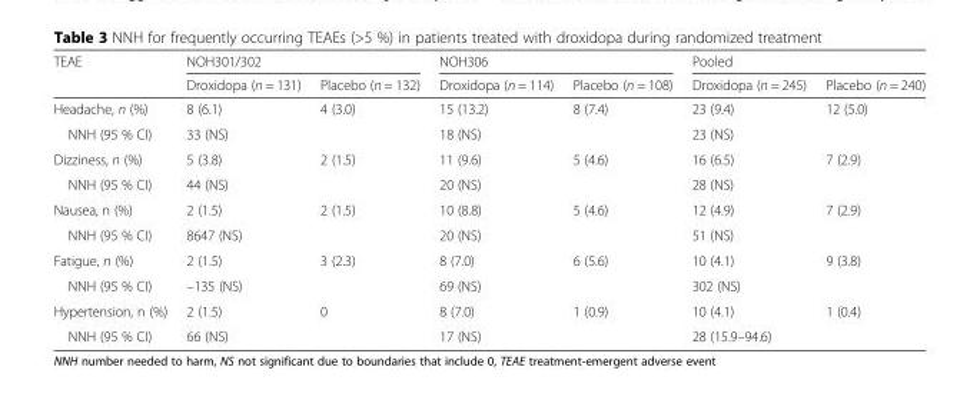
<table><thead><tr><td rowspan="2">TEAE</td><td colspan="2">NOH301/302</td><td colspan="2">NOH306</td><td colspan="2">Pooled</td></tr><tr><td>Droxidopa (n = 131)</td><td>Placebo (n = 132)</td><td>Droxidopa (n = 114)</td><td>Placebo (n = 108)</td><td>Droxidopa (n = 245)</td><td>Placebo (n = 240)</td></tr></thead><tbody><tr><td>Headache, n (%)</td><td>8 (6.1)</td><td>4 (3.0)</td><td>15 (13.2)</td><td>8 (7.4)</td><td>23 (9.4)</td><td>12 (5.0)</td></tr><tr><td>NNH (95 % CI)</td><td>33 (NS)</td><td></td><td>18 (NS)</td><td></td><td>23 (NS)</td><td></td></tr><tr><td>Dizziness, n (%)</td><td>5 (3.8)</td><td>2 (1.5)</td><td>11 (9.6)</td><td>5 (4.6)</td><td>16 (6.5)</td><td>7 (2.9)</td></tr><tr><td>NNH (95 % CI)</td><td>44 (NS)</td><td></td><td>20 (NS)</td><td></td><td>28 (NS)</td><td></td></tr><tr><td>Nausea, n (%)</td><td>2 (1.5)</td><td>2 (1.5)</td><td>10 (8.8)</td><td>5 (4.6)</td><td>12 (4.9)</td><td>7 (2.9)</td></tr><tr><td>NNH (95 % CI)</td><td>8647 (NS)</td><td></td><td>20 (NS)</td><td></td><td>51 (NS)</td><td></td></tr><tr><td>Fatigue, n (%)</td><td>2 (1.5)</td><td>3 (2.3)</td><td>8 (7.0)</td><td>6 (5.6)</td><td>10 (4.1)</td><td>9 (3.8)</td></tr><tr><td>NNH (95 % CI)</td><td>–135 (NS)</td><td></td><td>69 (NS)</td><td></td><td>302 (NS)</td><td></td></tr><tr><td>Hypertension, n (%)</td><td>2 (1.5)</td><td>0</td><td>8 (7.0)</td><td>1 (0.9)</td><td>10 (4.1)</td><td>1 (0.4)</td></tr><tr><td>NNH (95 % CI)</td><td>66 (NS)</td><td></td><td>17 (NS)</td><td></td><td>28 (15.9–94.6)</td><td></td></tr></tbody></table>